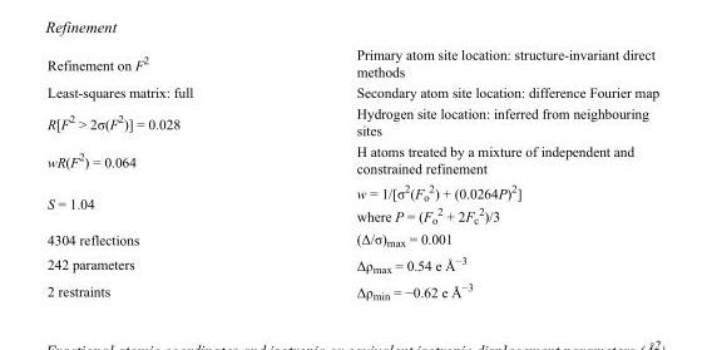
<table><tbody><tr><td>Refinement on F<sup>2</sup></td><td>Primary atom site location: structure-invariant direct methods</td></tr><tr><td>Least-squares matrix: full</td><td>Secondary atom site location: difference Fourier map</td></tr><tr><td>R[F<sup>2</sup> &gt; 2σ(F<sup>2</sup>)] = 0.028</td><td>Hydrogen site location: inferred from neighbouring sites</td></tr><tr><td>wR(F<sup>2</sup>) = 0.064</td><td>H atoms treated by a mixture of independent and constrained refinement</td></tr><tr><td>S = 1.04</td><td>w = 1/[σ<sup>2</sup>(F<sub>o</sub> <sup>2</sup>) + (0.0264P)<sup>2</sup>] where P = (F<sub>o</sub> <sup>2</sup> + 2F<sub>c</sub> <sup>2</sup>)/3</td></tr><tr><td>4304 reflections</td><td>(Δ/σ)<sub>max</sub> = 0.001</td></tr><tr><td>242 parameters</td><td>Δρ<sub>max</sub> = 0.54 e Å<sup>−3</sup></td></tr><tr><td>2 restraints</td><td>Δρ<sub>min</sub> = −0.62 e Å<sup>−3</sup></td></tr></tbody></table>